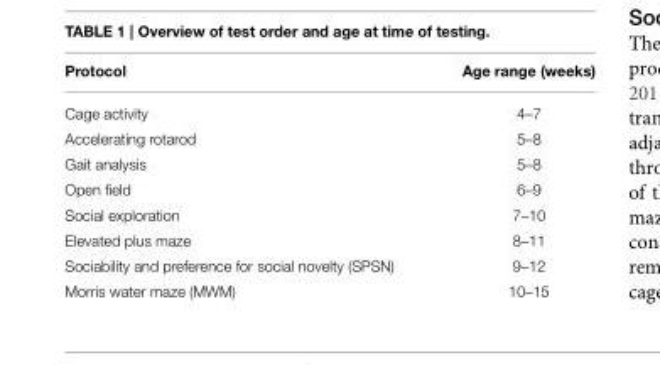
<table><thead><tr><td>Protocol</td><td>Age range (weeks)</td></tr></thead><tbody><tr><td>Cage activity</td><td>4–7</td></tr><tr><td>Accelerating rotarod</td><td>5–8</td></tr><tr><td>Gait analysis</td><td>5–8</td></tr><tr><td>Open field</td><td>6–9</td></tr><tr><td>Social exploration</td><td>7–10</td></tr><tr><td>Elevated plus maze</td><td>8–11</td></tr><tr><td>Sociability and preference for social novelty (SPSN)</td><td>9–12</td></tr><tr><td>Morris water maze (MWM)</td><td>10–15</td></tr></tbody></table>